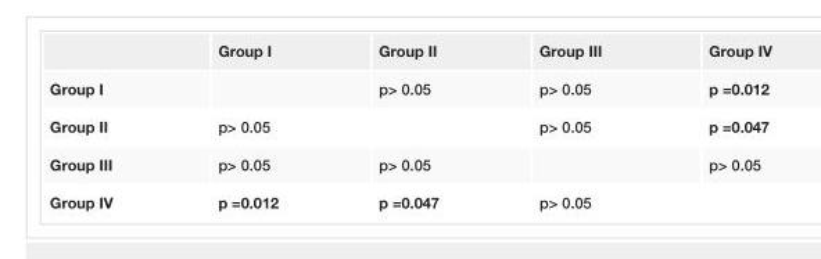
<table><thead><tr><td></td><td>Group I</td><td>Group II</td><td>Group III</td><td>Group IV</td></tr></thead><tbody><tr><td>Group I</td><td></td><td>p&gt; 0.05</td><td>p&gt; 0.05</td><td>p =0.012</td></tr><tr><td>Group II</td><td>p&gt; 0.05</td><td></td><td>p&gt; 0.05</td><td>p =0.047</td></tr><tr><td>Group III</td><td>p&gt; 0.05</td><td>p&gt; 0.05</td><td></td><td>p&gt; 0.05</td></tr><tr><td>Group IV</td><td>p =0.012</td><td>p =0.047</td><td>p&gt; 0.05</td><td></td></tr></tbody></table>